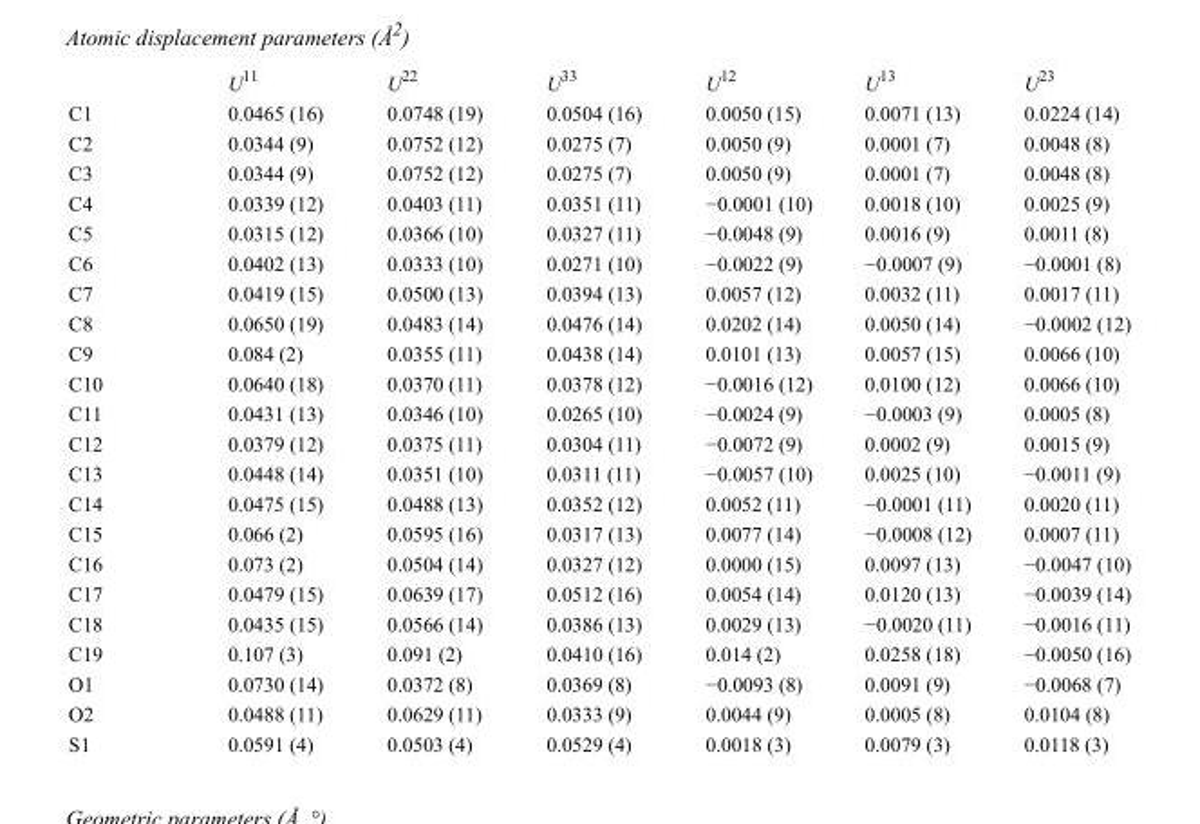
<table><thead><tr><td></td><td>U<sup>11</sup></td><td>U<sup>22</sup></td><td>U<sup>33</sup></td><td>U<sup>12</sup></td><td>U<sup>13</sup></td><td>U<sup>23</sup></td></tr></thead><tbody><tr><td>C1</td><td>0.0465 (16)</td><td>0.0748 (19)</td><td>0.0504 (16)</td><td>0.0050 (15)</td><td>0.0071 (13)</td><td>0.0224 (14)</td></tr><tr><td>C2</td><td>0.0344 (9)</td><td>0.0752 (12)</td><td>0.0275 (7)</td><td>0.0050 (9)</td><td>0.0001 (7)</td><td>0.0048 (8)</td></tr><tr><td>C3</td><td>0.0344 (9)</td><td>0.0752 (12)</td><td>0.0275 (7)</td><td>0.0050 (9)</td><td>0.0001 (7)</td><td>0.0048 (8)</td></tr><tr><td>C4</td><td>0.0339 (12)</td><td>0.0403 (11)</td><td>0.0351 (11)</td><td>−0.0001 (10)</td><td>0.0018 (10)</td><td>0.0025 (9)</td></tr><tr><td>C5</td><td>0.0315 (12)</td><td>0.0366 (10)</td><td>0.0327 (11)</td><td>−0.0048 (9)</td><td>0.0016 (9)</td><td>0.0011 (8)</td></tr><tr><td>C6</td><td>0.0402 (13)</td><td>0.0333 (10)</td><td>0.0271 (10)</td><td>−0.0022 (9)</td><td>−0.0007 (9)</td><td>−0.0001 (8)</td></tr><tr><td>C7</td><td>0.0419 (15)</td><td>0.0500 (13)</td><td>0.0394 (13)</td><td>0.0057 (12)</td><td>0.0032 (11)</td><td>0.0017 (11)</td></tr><tr><td>C8</td><td>0.0650 (19)</td><td>0.0483 (14)</td><td>0.0476 (14)</td><td>0.0202 (14)</td><td>0.0050 (14)</td><td>−0.0002 (12)</td></tr><tr><td>C9</td><td>0.084 (2)</td><td>0.0355 (11)</td><td>0.0438 (14)</td><td>0.0101 (13)</td><td>0.0057 (15)</td><td>0.0066 (10)</td></tr><tr><td>C10</td><td>0.0640 (18)</td><td>0.0370 (11)</td><td>0.0378 (12)</td><td>−0.0016 (12)</td><td>0.0100 (12)</td><td>0.0066 (10)</td></tr><tr><td>C11</td><td>0.0431 (13)</td><td>0.0346 (10)</td><td>0.0265 (10)</td><td>−0.0024 (9)</td><td>−0.0003 (9)</td><td>0.0005 (8)</td></tr><tr><td>C12</td><td>0.0379 (12)</td><td>0.0375 (11)</td><td>0.0304 (11)</td><td>−0.0072 (9)</td><td>0.0002 (9)</td><td>0.0015 (9)</td></tr><tr><td>C13</td><td>0.0448 (14)</td><td>0.0351 (10)</td><td>0.0311 (11)</td><td>−0.0057 (10)</td><td>0.0025 (10)</td><td>−0.0011 (9)</td></tr><tr><td>C14</td><td>0.0475 (15)</td><td>0.0488 (13)</td><td>0.0352 (12)</td><td>0.0052 (11)</td><td>−0.0001 (11)</td><td>0.0020 (11)</td></tr><tr><td>C15</td><td>0.066 (2)</td><td>0.0595 (16)</td><td>0.0317 (13)</td><td>0.0077 (14)</td><td>−0.0008 (12)</td><td>0.0007 (11)</td></tr><tr><td>C16</td><td>0.073 (2)</td><td>0.0504 (14)</td><td>0.0327 (12)</td><td>0.0000 (15)</td><td>0.0097 (13)</td><td>−0.0047 (10)</td></tr><tr><td>C17</td><td>0.0479 (15)</td><td>0.0639 (17)</td><td>0.0512 (16)</td><td>0.0054 (14)</td><td>0.0120 (13)</td><td>−0.0039 (14)</td></tr><tr><td>C18</td><td>0.0435 (15)</td><td>0.0566 (14)</td><td>0.0386 (13)</td><td>0.0029 (13)</td><td>−0.0020 (11)</td><td>−0.0016 (11)</td></tr><tr><td>C19</td><td>0.107 (3)</td><td>0.091 (2)</td><td>0.0410 (16)</td><td>0.014 (2)</td><td>0.0258 (18)</td><td>−0.0050 (16)</td></tr><tr><td>O1</td><td>0.0730 (14)</td><td>0.0372 (8)</td><td>0.0369 (8)</td><td>−0.0093 (8)</td><td>0.0091 (9)</td><td>−0.0068 (7)</td></tr><tr><td>O2</td><td>0.0488 (11)</td><td>0.0629 (11)</td><td>0.0333 (9)</td><td>0.0044 (9)</td><td>0.0005 (8)</td><td>0.0104 (8)</td></tr><tr><td>S1</td><td>0.0591 (4)</td><td>0.0503 (4)</td><td>0.0529 (4)</td><td>0.0018 (3)</td><td>0.0079 (3)</td><td>0.0118 (3)</td></tr></tbody></table>